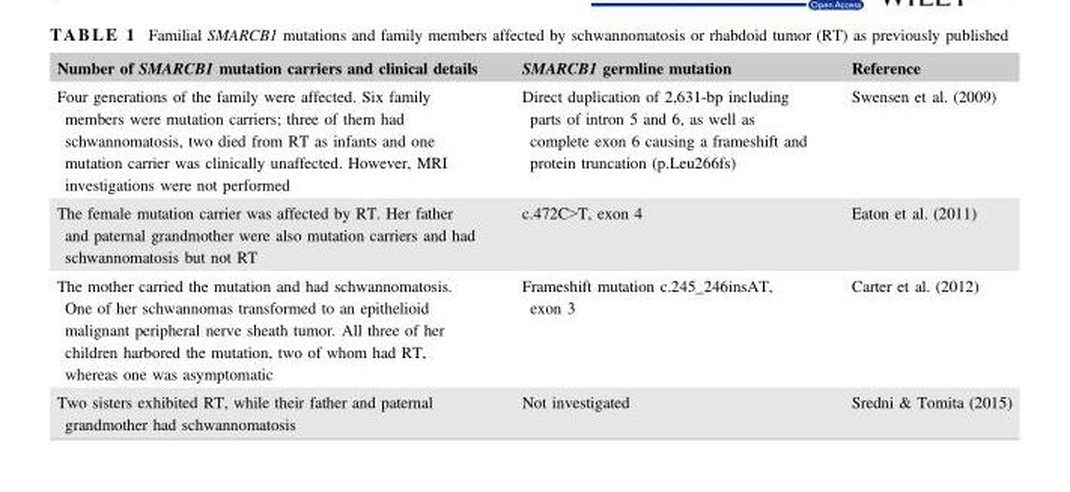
<table><thead><tr><td>Number of SMARCB1 mutation carriers and clinical details</td><td>SMARCB1 germline mutation</td><td>Reference</td></tr></thead><tbody><tr><td>Four generations of the family were affected. Six family members were mutation carriers; three of them had schwannomatosis, two died from RT as infants and one mutation carrier was clinically unaffected. However, MRI investigations were not performed</td><td>Direct duplication of 2,631-bp including parts of intron 5 and 6, as well as complete exon 6 causing a frameshift and protein truncation (p.Leu266fs)</td><td>Swensen et al. (2009)</td></tr><tr><td>The female mutation carrier was affected by RT. Her father and paternal grandmother were also mutation carriers and had schwannomatosis but not RT</td><td>c.472C&gt;T, exon 4</td><td>Eaton et al. (2011)</td></tr><tr><td>The mother carried the mutation and had schwannomatosis. One of her schwannomas transformed to an epithelioid malignant peripheral nerve sheath tumor. All three of her children harbored the mutation, two of whom had RT, whereas one was asymptomatic</td><td>Frameshift mutation c.245_246insAT, exon 3</td><td>Carter et al. (2012)</td></tr><tr><td>Two sisters exhibited RT, while their father and paternal grandmother had schwannomatosis</td><td>Not investigated</td><td>Sredni &amp; Tomita (2015)</td></tr></tbody></table>